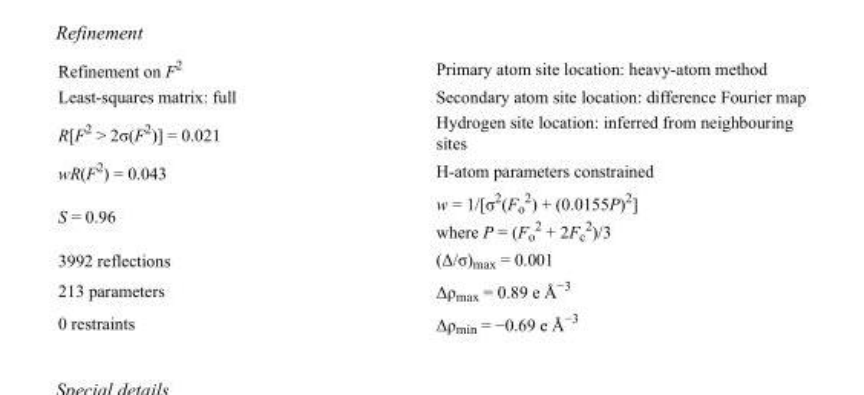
<table><tbody><tr><td>Refinement on F<sup>2</sup></td><td>Primary atom site location: heavy-atom method</td></tr><tr><td>Least-squares matrix: full</td><td>Secondary atom site location: difference Fourier map</td></tr><tr><td>R[F<sup>2</sup> &gt; 2σ(F<sup>2</sup>)] = 0.021</td><td>Hydrogen site location: inferred from neighbouring sites</td></tr><tr><td>wR(F<sup>2</sup>) = 0.043</td><td>H-atom parameters constrained</td></tr><tr><td>S = 0.96</td><td>w = 1/[σ<sup>2</sup>(F<sub>o</sub> <sup>2</sup>) + (0.0155P)<sup>2</sup>] where P = (F<sub>o</sub> <sup>2</sup> + 2F<sub>c</sub> <sup>2</sup>)/3</td></tr><tr><td>3992 reflections</td><td>(Δ/σ)<sub>max</sub> = 0.001</td></tr><tr><td>213 parameters</td><td>Δρ<sub>max</sub> = 0.89 e Å<sup>−3</sup></td></tr><tr><td>0 restraints</td><td>Δρ<sub>min</sub> = −0.69 e Å<sup>−3</sup></td></tr></tbody></table>